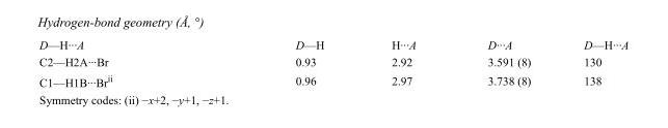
<table><tbody><tr><td>D—H···A</td><td>D—H</td><td>H···A</td><td>D···A</td><td>D—H···A</td></tr><tr><td>C2—H2A···Br</td><td>0.93</td><td>2.92</td><td>3.591 (8)</td><td>130</td></tr><tr><td>C1—H1B···Br<sup>ii</sup></td><td>0.96</td><td>2.97</td><td>3.738 (8)</td><td>138</td></tr></tbody></table>